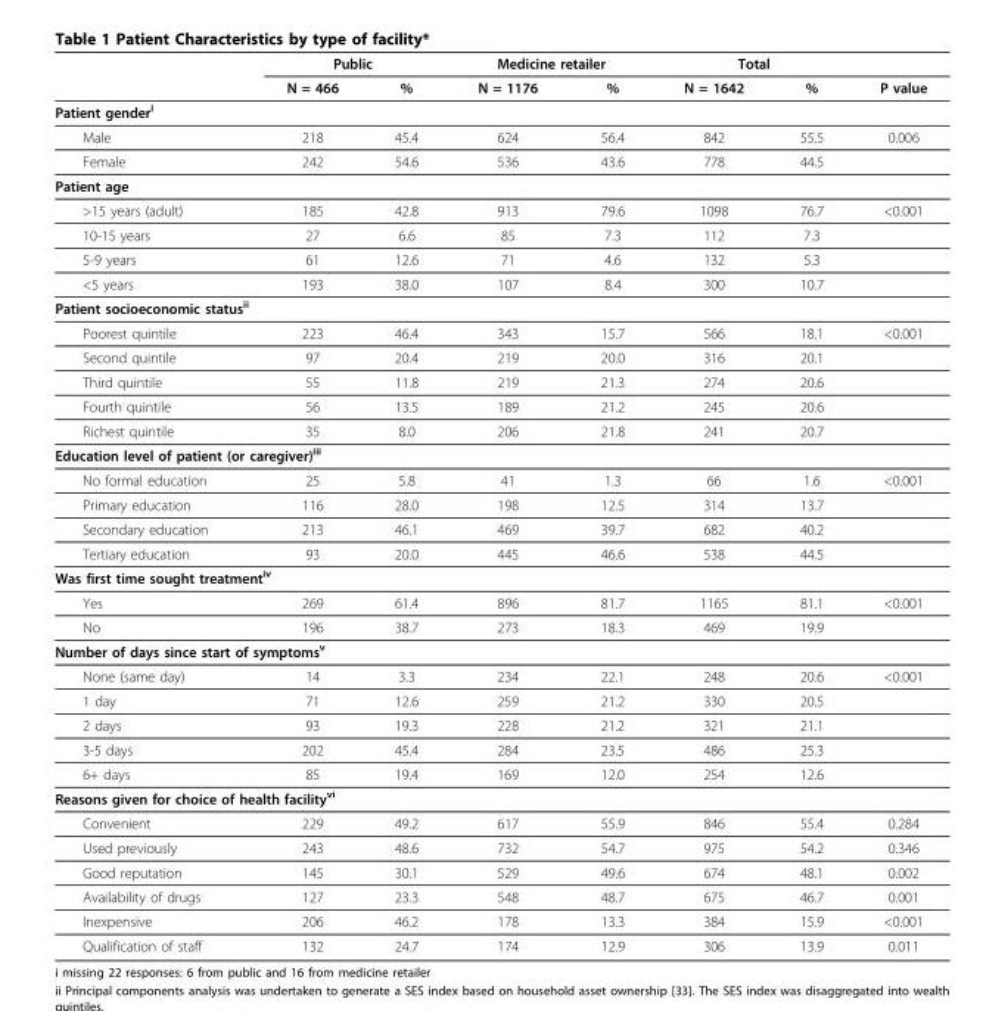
<table><thead><tr><td rowspan="2"></td><td colspan="2">Public</td><td colspan="2">Medicine retailer</td><td colspan="2">Total</td><td rowspan="2">P value</td></tr><tr><td>N = 466</td><td>%</td><td>N = 1176</td><td>%</td><td>N = 1642</td><td>%</td></tr></thead><tbody><tr><td colspan="8">Patient gender<sup>i</sup></td></tr><tr><td>Male</td><td>218</td><td>45.4</td><td>624</td><td>56.4</td><td>842</td><td>55.5</td><td>0.006</td></tr><tr><td>Female</td><td>242</td><td>54.6</td><td>536</td><td>43.6</td><td>778</td><td>44.5</td><td></td></tr><tr><td colspan="8">Patient age</td></tr><tr><td>&gt;15 years (adult)</td><td>185</td><td>42.8</td><td>913</td><td>79.6</td><td>1098</td><td>76.7</td><td>&lt;0.001</td></tr><tr><td>10-15 years</td><td>27</td><td>6.6</td><td>85</td><td>7.3</td><td>112</td><td>7.3</td><td></td></tr><tr><td>5-9 years</td><td>61</td><td>12.6</td><td>71</td><td>4.6</td><td>132</td><td>5.3</td><td></td></tr><tr><td>&lt;5 years</td><td>193</td><td>38.0</td><td>107</td><td>8.4</td><td>300</td><td>10.7</td><td></td></tr><tr><td colspan="8">Patient socioeconomic status<sup>ii</sup></td></tr><tr><td>Poorest quintile</td><td>223</td><td>46.4</td><td>343</td><td>15.7</td><td>566</td><td>18.1</td><td>&lt;0.001</td></tr><tr><td>Second quintile</td><td>97</td><td>20.4</td><td>219</td><td>20.0</td><td>316</td><td>20.1</td><td></td></tr><tr><td>Third quintile</td><td>55</td><td>11.8</td><td>219</td><td>21.3</td><td>274</td><td>20.6</td><td></td></tr><tr><td>Fourth quintile</td><td>56</td><td>13.5</td><td>189</td><td>21.2</td><td>245</td><td>20.6</td><td></td></tr><tr><td>Richest quintile</td><td>35</td><td>8.0</td><td>206</td><td>21.8</td><td>241</td><td>20.7</td><td></td></tr><tr><td colspan="8">Education level of patient (or caregiver)<sup>iii</sup></td></tr><tr><td>No formal education</td><td>25</td><td>5.8</td><td>41</td><td>1.3</td><td>66</td><td>1.6</td><td>&lt;0.001</td></tr><tr><td>Primary education</td><td>116</td><td>28.0</td><td>198</td><td>12.5</td><td>314</td><td>13.7</td><td></td></tr><tr><td>Secondary education</td><td>213</td><td>46.1</td><td>469</td><td>39.7</td><td>682</td><td>40.2</td><td></td></tr><tr><td>Tertiary education</td><td>93</td><td>20.0</td><td>445</td><td>46.6</td><td>538</td><td>44.5</td><td></td></tr><tr><td colspan="8">Was first time sought treatment<sup>iv</sup></td></tr><tr><td>Yes</td><td>269</td><td>61.4</td><td>896</td><td>81.7</td><td>1165</td><td>81.1</td><td>&lt;0.001</td></tr><tr><td>No</td><td>196</td><td>38.7</td><td>273</td><td>18.3</td><td>469</td><td>19.9</td><td></td></tr><tr><td colspan="8">Number of days since start of symptoms<sup>v</sup></td></tr><tr><td>None (same day)</td><td>14</td><td>3.3</td><td>234</td><td>22.1</td><td>248</td><td>20.6</td><td>&lt;0.001</td></tr><tr><td>1 day</td><td>71</td><td>12.6</td><td>259</td><td>21.2</td><td>330</td><td>20.5</td><td></td></tr><tr><td>2 days</td><td>93</td><td>19.3</td><td>228</td><td>21.2</td><td>321</td><td>21.1</td><td></td></tr><tr><td>3-5 days</td><td>202</td><td>45.4</td><td>284</td><td>23.5</td><td>486</td><td>25.3</td><td></td></tr><tr><td>6+ days</td><td>85</td><td>19.4</td><td>169</td><td>12.0</td><td>254</td><td>12.6</td><td></td></tr><tr><td colspan="8">Reasons given for choice of health facility<sup>vi</sup></td></tr><tr><td>Convenient</td><td>229</td><td>49.2</td><td>617</td><td>55.9</td><td>846</td><td>55.4</td><td>0.284</td></tr><tr><td>Used previously</td><td>243</td><td>48.6</td><td>732</td><td>54.7</td><td>975</td><td>54.2</td><td>0.346</td></tr><tr><td>Good reputation</td><td>145</td><td>30.1</td><td>529</td><td>49.6</td><td>674</td><td>48.1</td><td>0.002</td></tr><tr><td>Availability of drugs</td><td>127</td><td>23.3</td><td>548</td><td>48.7</td><td>675</td><td>46.7</td><td>0.001</td></tr><tr><td>Inexpensive</td><td>206</td><td>46.2</td><td>178</td><td>13.3</td><td>384</td><td>15.9</td><td>&lt;0.001</td></tr><tr><td>Qualification of staff</td><td>132</td><td>24.7</td><td>174</td><td>12.9</td><td>306</td><td>13.9</td><td>0.011</td></tr></tbody></table>